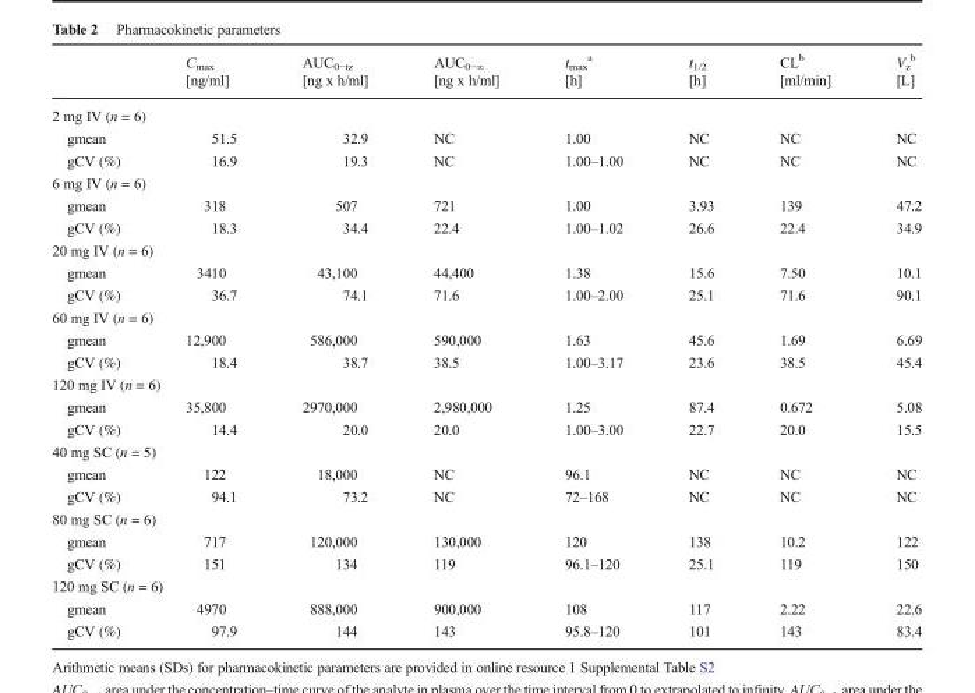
<table><thead><tr><td></td><td>C<sub>max</sub> [ng/ml]</td><td>AUC<sub>0−tz</sub> [ng x h/ml]</td><td>AUC<sub>0−∞</sub> [ng x h/ml]</td><td>t<sub>max</sub> <sup>a</sup> [h]</td><td>t<sub>1/2</sub> [h]</td><td>CL<sup>b</sup> [ml/min]</td><td>V<sub>z</sub> <sup>b</sup> [L]</td></tr></thead><tbody><tr><td colspan="8">2 mg IV (n = 6)</td></tr><tr><td>gmean</td><td>51.5</td><td>32.9</td><td>NC</td><td>1.00</td><td>NC</td><td>NC</td><td>NC</td></tr><tr><td>gCV (%)</td><td>16.9</td><td>19.3</td><td>NC</td><td>1.00–1.00</td><td>NC</td><td>NC</td><td>NC</td></tr><tr><td colspan="8">6 mg IV (n = 6)</td></tr><tr><td>gmean</td><td>318</td><td>507</td><td>721</td><td>1.00</td><td>3.93</td><td>139</td><td>47.2</td></tr><tr><td>gCV (%)</td><td>18.3</td><td>34.4</td><td>22.4</td><td>1.00–1.02</td><td>26.6</td><td>22.4</td><td>34.9</td></tr><tr><td colspan="8">20 mg IV (n = 6)</td></tr><tr><td>gmean</td><td>3410</td><td>43,100</td><td>44,400</td><td>1.38</td><td>15.6</td><td>7.50</td><td>10.1</td></tr><tr><td>gCV (%)</td><td>36.7</td><td>74.1</td><td>71.6</td><td>1.00–2.00</td><td>25.1</td><td>71.6</td><td>90.1</td></tr><tr><td colspan="8">60 mg IV (n = 6)</td></tr><tr><td>gmean</td><td>12,900</td><td>586,000</td><td>590,000</td><td>1.63</td><td>45.6</td><td>1.69</td><td>6.69</td></tr><tr><td>gCV (%)</td><td>18.4</td><td>38.7</td><td>38.5</td><td>1.00–3.17</td><td>23.6</td><td>38.5</td><td>45.4</td></tr><tr><td colspan="8">120 mg IV (n = 6)</td></tr><tr><td>gmean</td><td>35,800</td><td>2970,000</td><td>2,980,000</td><td>1.25</td><td>87.4</td><td>0.672</td><td>5.08</td></tr><tr><td>gCV (%)</td><td>14.4</td><td>20.0</td><td>20.0</td><td>1.00–3.00</td><td>22.7</td><td>20.0</td><td>15.5</td></tr><tr><td colspan="8">40 mg SC (n = 5)</td></tr><tr><td>gmean</td><td>122</td><td>18,000</td><td>NC</td><td>96.1</td><td>NC</td><td>NC</td><td>NC</td></tr><tr><td>gCV (%)</td><td>94.1</td><td>73.2</td><td>NC</td><td>72–168</td><td>NC</td><td>NC</td><td>NC</td></tr><tr><td colspan="8">80 mg SC (n = 6)</td></tr><tr><td>gmean</td><td>717</td><td>120,000</td><td>130,000</td><td>120</td><td>138</td><td>10.2</td><td>122</td></tr><tr><td>gCV (%)</td><td>151</td><td>134</td><td>119</td><td>96.1–120</td><td>25.1</td><td>119</td><td>150</td></tr><tr><td colspan="8">120 mg SC (n = 6)</td></tr><tr><td>gmean</td><td>4970</td><td>888,000</td><td>900,000</td><td>108</td><td>117</td><td>2.22</td><td>22.6</td></tr><tr><td>gCV (%)</td><td>97.9</td><td>144</td><td>143</td><td>95.8–120</td><td>101</td><td>143</td><td>83.4</td></tr></tbody></table>